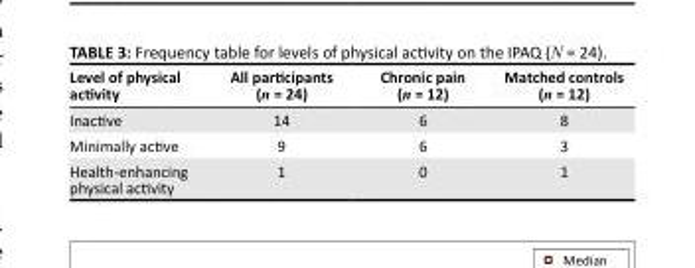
<table><thead><tr><td>Level of physical activity</td><td>All participants (n = 24)</td><td>Chronic pain (n = 12)</td><td>Matched controls (n = 12)</td></tr></thead><tbody><tr><td>Inactive</td><td>14</td><td>6</td><td>8</td></tr><tr><td>Minimally active</td><td>9</td><td>6</td><td>3</td></tr><tr><td>Health-enhancing physical activity</td><td>1</td><td>0</td><td>1</td></tr></tbody></table>